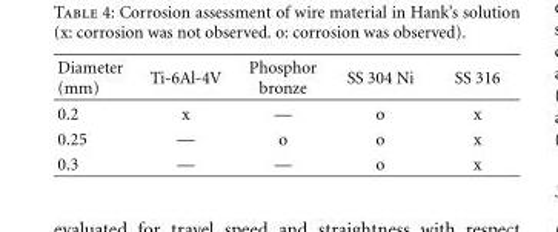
<table><thead><tr><td>Diameter (mm)</td><td>Ti-6Al-4V</td><td>Phosphor bronze</td><td>SS 304 Ni</td><td>SS 316</td></tr></thead><tbody><tr><td>0.2</td><td>x</td><td>—</td><td>o</td><td>x</td></tr><tr><td>0.25</td><td>—</td><td>o</td><td>o</td><td>x</td></tr><tr><td>0.3</td><td>—</td><td>—</td><td>o</td><td>x</td></tr></tbody></table>